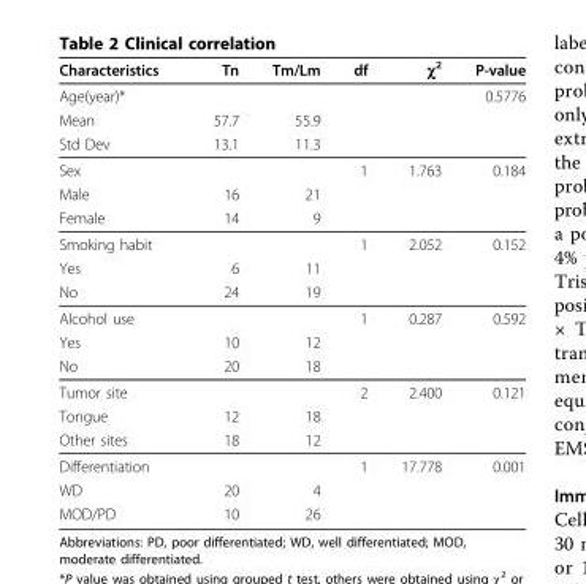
<table><thead><tr><td>Characteristics</td><td>Tn</td><td>Tm/Lm</td><td>df</td><td>χ<sup>2</sup></td><td>P-value</td></tr></thead><tbody><tr><td>Age(year)*</td><td></td><td></td><td></td><td></td><td>0.5776</td></tr><tr><td>Mean</td><td>57.7</td><td>55.9</td><td></td><td></td><td></td></tr><tr><td>Std Dev</td><td>13.1</td><td>11.3</td><td></td><td></td><td></td></tr><tr><td>Sex</td><td></td><td></td><td>1</td><td>1.763</td><td>0.184</td></tr><tr><td>Male</td><td>16</td><td>21</td><td></td><td></td><td></td></tr><tr><td>Female</td><td>14</td><td>9</td><td></td><td></td><td></td></tr><tr><td colspan="2">Smoking habit</td><td></td><td>1</td><td>2.052</td><td>0.152</td></tr><tr><td>Yes</td><td>6</td><td>11</td><td></td><td></td><td></td></tr><tr><td>No</td><td>24</td><td>19</td><td></td><td></td><td></td></tr><tr><td>Alcohol use</td><td></td><td></td><td>1</td><td>0.287</td><td>0.592</td></tr><tr><td>Yes</td><td>10</td><td>12</td><td></td><td></td><td></td></tr><tr><td>No</td><td>20</td><td>18</td><td></td><td></td><td></td></tr><tr><td>Tumor site</td><td></td><td></td><td>2</td><td>2.400</td><td>0.121</td></tr><tr><td>Tongue</td><td>12</td><td>18</td><td></td><td></td><td></td></tr><tr><td>Other sites</td><td>18</td><td>12</td><td></td><td></td><td></td></tr><tr><td colspan="2">Differentiation</td><td></td><td>1</td><td>17.778</td><td>0.001</td></tr><tr><td>WD</td><td>20</td><td>4</td><td></td><td></td><td></td></tr><tr><td>MOD/PD</td><td>10</td><td>26</td><td></td><td></td><td></td></tr></tbody></table>